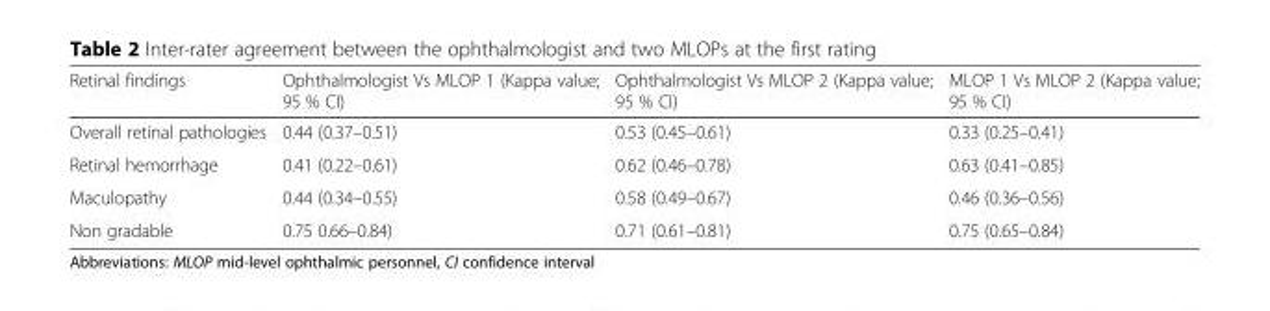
<table><thead><tr><td>Retinal findings</td><td>Ophthalmologist Vs MLOP 1 (Kappa value; 95 % CI)</td><td>Ophthalmologist Vs MLOP 2 (Kappa value; 95 % CI)</td><td>MLOP 1 Vs MLOP 2 (Kappa value; 95 % CI)</td></tr></thead><tbody><tr><td>Overall retinal pathologies</td><td>0.44 (0.37–0.51)</td><td>0.53 (0.45–0.61)</td><td>0.33 (0.25–0.41)</td></tr><tr><td>Retinal hemorrhage</td><td>0.41 (0.22–0.61)</td><td>0.62 (0.46–0.78)</td><td>0.63 (0.41–0.85)</td></tr><tr><td>Maculopathy</td><td>0.44 (0.34–0.55)</td><td>0.58 (0.49–0.67)</td><td>0.46 (0.36–0.56)</td></tr><tr><td>Non gradable</td><td>0.75 0.66–0.84)</td><td>0.71 (0.61–0.81)</td><td>0.75 (0.65–0.84)</td></tr></tbody></table>